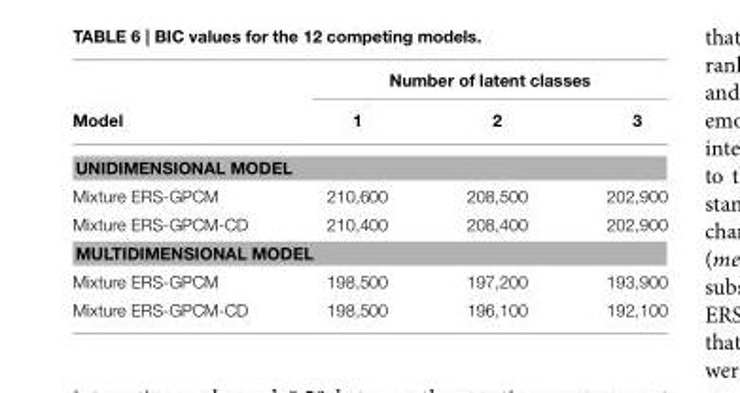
<table><thead><tr><td rowspan="2">Model</td><td colspan="3">Number of latent classes</td></tr><tr><td>1</td><td>2</td><td>3</td></tr></thead><tbody><tr><td colspan="4">UNIDIMENSIONAL MODEL</td></tr><tr><td>Mixture ERS-GPCM</td><td>210,600</td><td>208,500</td><td>202,900</td></tr><tr><td>Mixture ERS-GPCM-CD</td><td>210,400</td><td>208,400</td><td>202,900</td></tr><tr><td colspan="4">MULTIDIMENSIONAL MODEL</td></tr><tr><td>Mixture ERS-GPCM</td><td>198,500</td><td>197,200</td><td>193,900</td></tr><tr><td>Mixture ERS-GPCM-CD</td><td>198,500</td><td>196,100</td><td>192,100</td></tr></tbody></table>